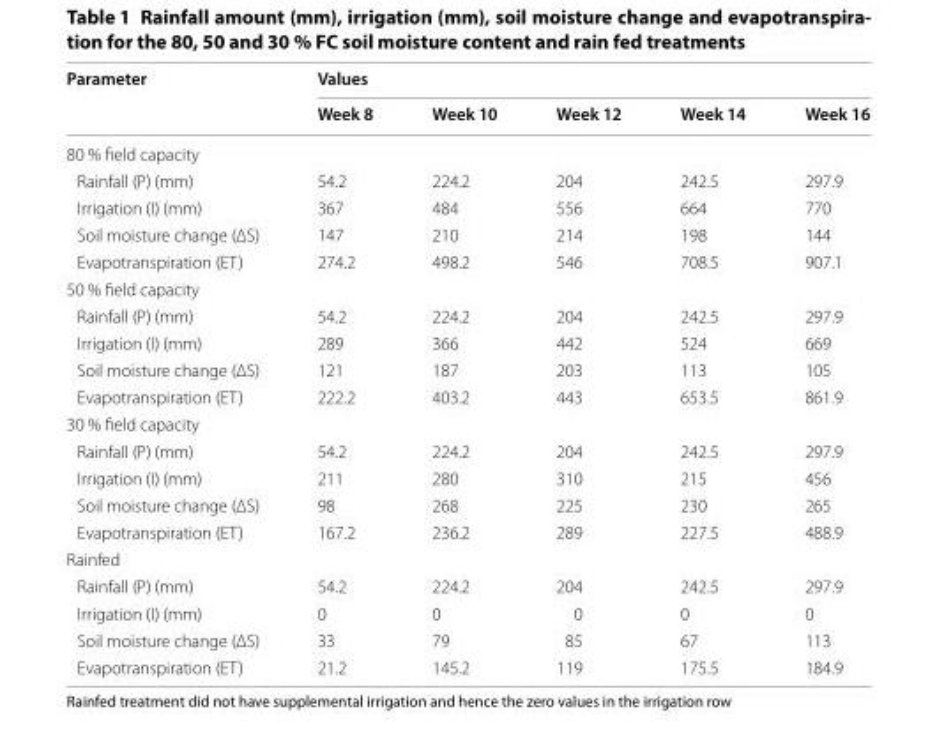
<table><thead><tr><td rowspan="2">Parameter</td><td colspan="5">Values</td></tr><tr><td>Week 8</td><td>Week 10</td><td>Week 12</td><td>Week 14</td><td>Week 16</td></tr></thead><tbody><tr><td colspan="6">80 % field capacity</td></tr><tr><td>Rainfall (P) (mm)</td><td>54.2</td><td>224.2</td><td>204</td><td>242.5</td><td>297.9</td></tr><tr><td>Irrigation (I) (mm)</td><td>367</td><td>484</td><td>556</td><td>664</td><td>770</td></tr><tr><td>Soil moisture change (ΔS)</td><td>147</td><td>210</td><td>214</td><td>198</td><td>144</td></tr><tr><td>Evapotranspiration (ET)</td><td>274.2</td><td>498.2</td><td>546</td><td>708.5</td><td>907.1</td></tr><tr><td colspan="6">50 % field capacity</td></tr><tr><td>Rainfall (P) (mm)</td><td>54.2</td><td>224.2</td><td>204</td><td>242.5</td><td>297.9</td></tr><tr><td>Irrigation (I) (mm)</td><td>289</td><td>366</td><td>442</td><td>524</td><td>669</td></tr><tr><td>Soil moisture change (ΔS)</td><td>121</td><td>187</td><td>203</td><td>113</td><td>105</td></tr><tr><td>Evapotranspiration (ET)</td><td>222.2</td><td>403.2</td><td>443</td><td>653.5</td><td>861.9</td></tr><tr><td colspan="6">30 % field capacity</td></tr><tr><td>Rainfall (P) (mm)</td><td>54.2</td><td>224.2</td><td>204</td><td>242.5</td><td>297.9</td></tr><tr><td>Irrigation (I) (mm)</td><td>211</td><td>280</td><td>310</td><td>215</td><td>456</td></tr><tr><td>Soil moisture change (ΔS)</td><td>98</td><td>268</td><td>225</td><td>230</td><td>265</td></tr><tr><td>Evapotranspiration (ET)</td><td>167.2</td><td>236.2</td><td>289</td><td>227.5</td><td>488.9</td></tr><tr><td colspan="6">Rainfed</td></tr><tr><td>Rainfall (P) (mm)</td><td>54.2</td><td>224.2</td><td>204</td><td>242.5</td><td>297.9</td></tr><tr><td>Irrigation (I) (mm)</td><td>0</td><td>0</td><td>0</td><td>0</td><td>0</td></tr><tr><td>Soil moisture change (ΔS)</td><td>33</td><td>79</td><td>85</td><td>67</td><td>113</td></tr><tr><td>Evapotranspiration (ET)</td><td>21.2</td><td>145.2</td><td>119</td><td>175.5</td><td>184.9</td></tr></tbody></table>